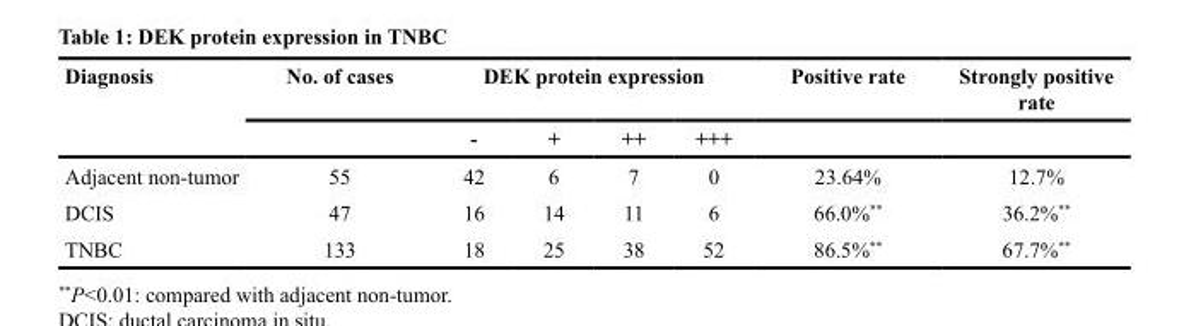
<table><thead><tr><td rowspan="2">Diagnosis</td><td rowspan="2">No. of cases</td><td colspan="4">DEK protein expression</td><td rowspan="2">Positive rate</td><td rowspan="2">Strongly positive rate</td></tr><tr><td>-</td><td>+</td><td>++</td><td>+++</td></tr></thead><tbody><tr><td>Adjacent non-tumor</td><td>55</td><td>42</td><td>6</td><td>7</td><td>0</td><td>23.64%</td><td>12.7%</td></tr><tr><td>DCIS</td><td>47</td><td>16</td><td>14</td><td>11</td><td>6</td><td>66.0%**</td><td>36.2%**</td></tr><tr><td>TNBC</td><td>133</td><td>18</td><td>25</td><td>38</td><td>52</td><td>86.5%**</td><td>67.7%**</td></tr></tbody></table>